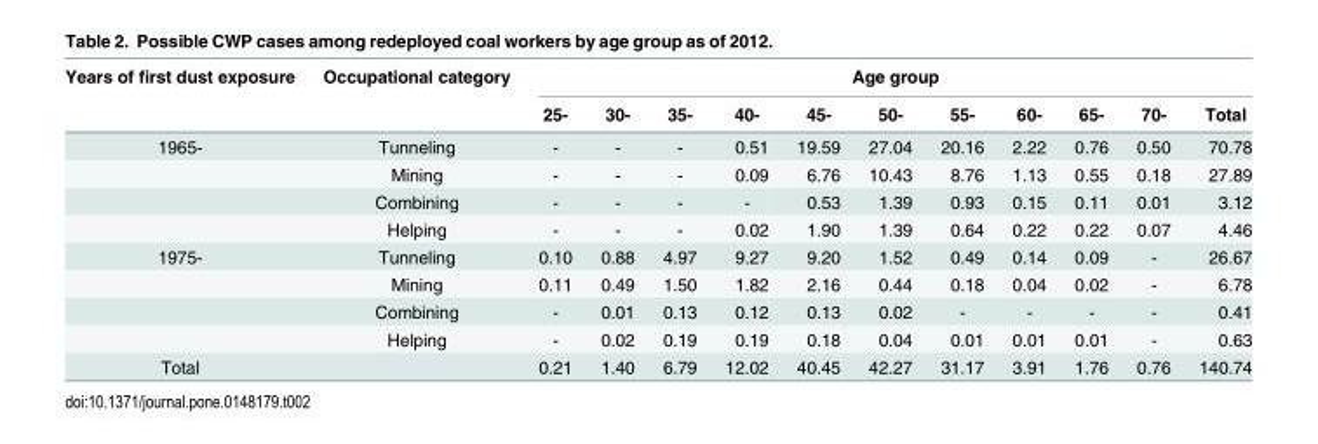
<table><thead><tr><td rowspan="2">Years of first dust exposure</td><td rowspan="2">Occupational category</td><td colspan="11">Age group</td></tr><tr><td>25-</td><td>30-</td><td>35-</td><td>40-</td><td>45-</td><td>50-</td><td>55-</td><td>60-</td><td>65-</td><td>70-</td><td>Total</td></tr></thead><tbody><tr><td rowspan="4">1965-</td><td>Tunneling</td><td>-</td><td>-</td><td>-</td><td>0.51</td><td>19.59</td><td>27.04</td><td>20.16</td><td>2.22</td><td>0.76</td><td>0.50</td><td>70.78</td></tr><tr><td>Mining</td><td>-</td><td>-</td><td>-</td><td>0.09</td><td>6.76</td><td>10.43</td><td>8.76</td><td>1.13</td><td>0.55</td><td>0.18</td><td>27.89</td></tr><tr><td>Combining</td><td>-</td><td>-</td><td>-</td><td>-</td><td>0.53</td><td>1.39</td><td>0.93</td><td>0.15</td><td>0.11</td><td>0.01</td><td>3.12</td></tr><tr><td>Helping</td><td>-</td><td>-</td><td>-</td><td>0.02</td><td>1.90</td><td>1.39</td><td>0.64</td><td>0.22</td><td>0.22</td><td>0.07</td><td>4.46</td></tr><tr><td rowspan="4">1975-</td><td>Tunneling</td><td>0.10</td><td>0.88</td><td>4.97</td><td>9.27</td><td>9.20</td><td>1.52</td><td>0.49</td><td>0.14</td><td>0.09</td><td>-</td><td>26.67</td></tr><tr><td>Mining</td><td>0.11</td><td>0.49</td><td>1.50</td><td>1.82</td><td>2.16</td><td>0.44</td><td>0.18</td><td>0.04</td><td>0.02</td><td>-</td><td>6.78</td></tr><tr><td>Combining</td><td>-</td><td>0.01</td><td>0.13</td><td>0.12</td><td>0.13</td><td>0.02</td><td>-</td><td>-</td><td>-</td><td>-</td><td>0.41</td></tr><tr><td>Helping</td><td>-</td><td>0.02</td><td>0.19</td><td>0.19</td><td>0.18</td><td>0.04</td><td>0.01</td><td>0.01</td><td>0.01</td><td>-</td><td>0.63</td></tr><tr><td>Total</td><td></td><td>0.21</td><td>1.40</td><td>6.79</td><td>12.02</td><td>40.45</td><td>42.27</td><td>31.17</td><td>3.91</td><td>1.76</td><td>0.76</td><td>140.74</td></tr></tbody></table>